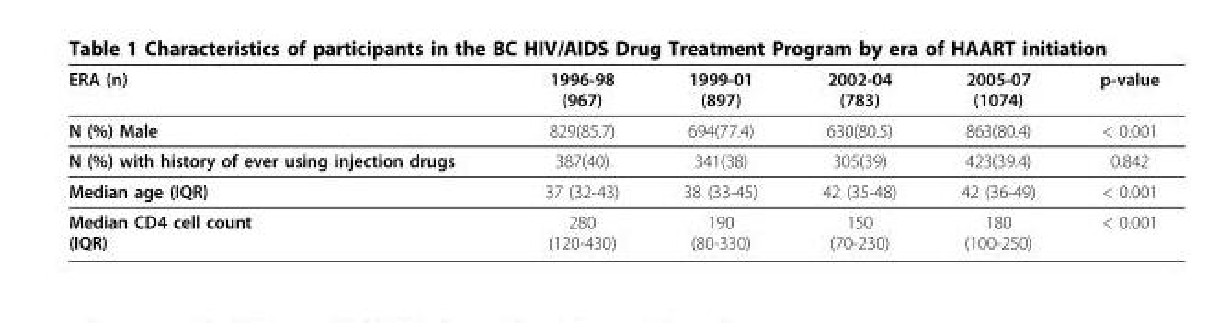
<table><thead><tr><td>ERA (n)</td><td>1996-98 (967)</td><td>1999-01 (897)</td><td>2002-04 (783)</td><td>2005-07 (1074)</td><td>p-value</td></tr></thead><tbody><tr><td>N (%) Male</td><td>829(85.7)</td><td>694(77.4)</td><td>630(80.5)</td><td>863(80.4)</td><td>&lt; 0.001</td></tr><tr><td>N (%) with history of ever using injection drugs</td><td>387(40)</td><td>341(38)</td><td>305(39)</td><td>423(39.4)</td><td>0.842</td></tr><tr><td>Median age (IQR)</td><td>37 (32-43)</td><td>38 (33-45)</td><td>42 (35-48)</td><td>42 (36-49)</td><td>&lt; 0.001</td></tr><tr><td>Median CD4 cell count (IQR)</td><td>280 (120-430)</td><td>190 (80-330)</td><td>150 (70-230)</td><td>180 (100-250)</td><td>&lt; 0.001</td></tr></tbody></table>